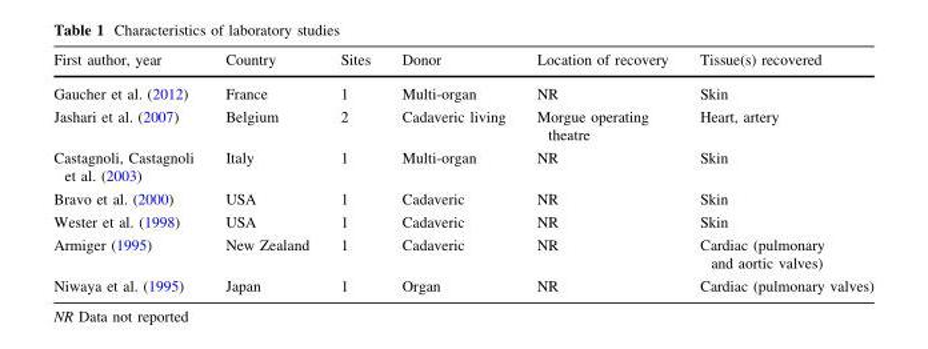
<table><thead><tr><td>First author, year</td><td>Country</td><td>Sites</td><td>Donor</td><td>Location of recovery</td><td>Tissue(s) recovered</td></tr></thead><tbody><tr><td>Gaucher et al. (2012)</td><td>France</td><td>1</td><td>Multi-organ</td><td>NR</td><td>Skin</td></tr><tr><td>Jashari et al. (2007)</td><td>Belgium</td><td>2</td><td>Cadaveric living</td><td>Morgue operating theatre</td><td>Heart, artery</td></tr><tr><td>Castagnoli, Castagnoli et al. (2003)</td><td>Italy</td><td>1</td><td>Multi-organ</td><td>NR</td><td>Skin</td></tr><tr><td>Bravo et al. (2000)</td><td>USA</td><td>1</td><td>Cadaveric</td><td>NR</td><td>Skin</td></tr><tr><td>Wester et al. (1998)</td><td>USA</td><td>1</td><td>Cadaveric</td><td>NR</td><td>Skin</td></tr><tr><td>Armiger (1995)</td><td>New Zealand</td><td>1</td><td>Cadaveric</td><td>NR</td><td>Cardiac (pulmonary and aortic valves)</td></tr><tr><td>Niwaya et al. (1995)</td><td>Japan</td><td>1</td><td>Organ</td><td>NR</td><td>Cardiac (pulmonary valves)</td></tr></tbody></table>